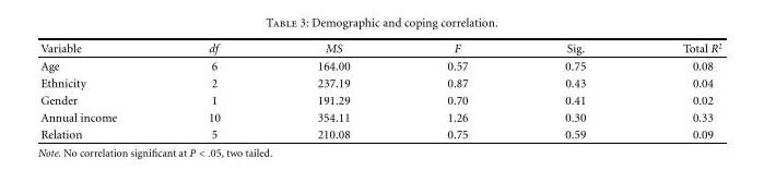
<table><thead><tr><td>Variable</td><td>df</td><td>MS</td><td>F</td><td>Sig.</td><td>Total R<sup>2</sup></td></tr></thead><tbody><tr><td>Age</td><td>6</td><td>164.00</td><td>0.57</td><td>0.75</td><td>0.08</td></tr><tr><td>Ethnicity</td><td>2</td><td>237.19</td><td>0.87</td><td>0.43</td><td>0.04</td></tr><tr><td>Gender</td><td>1</td><td>191.29</td><td>0.70</td><td>0.41</td><td>0.02</td></tr><tr><td>Annual income</td><td>10</td><td>354.11</td><td>1.26</td><td>0.30</td><td>0.33</td></tr><tr><td>Relation</td><td>5</td><td>210.08</td><td>0.75</td><td>0.59</td><td>0.09</td></tr></tbody></table>